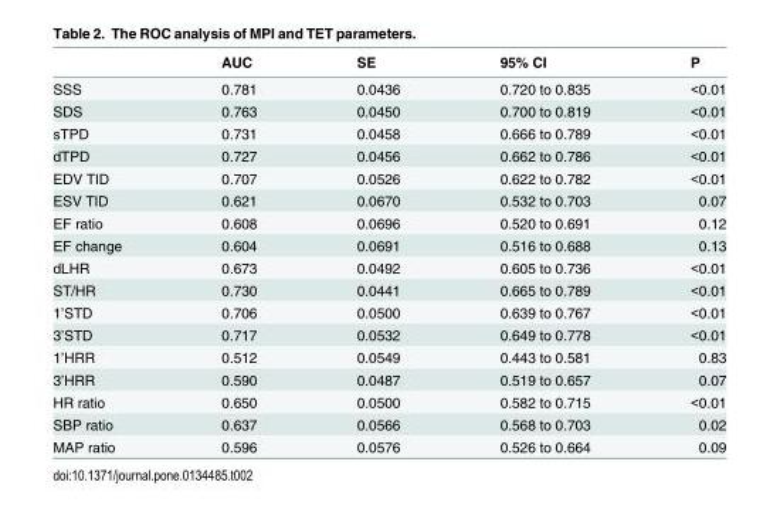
<table><thead><tr><td></td><td>AUC</td><td>SE</td><td>95% CI</td><td>P</td></tr></thead><tbody><tr><td>SSS</td><td>0.781</td><td>0.0436</td><td>0.720 to 0.835</td><td>&lt;0.01</td></tr><tr><td>SDS</td><td>0.763</td><td>0.0450</td><td>0.700 to 0.819</td><td>&lt;0.01</td></tr><tr><td>sTPD</td><td>0.731</td><td>0.0458</td><td>0.666 to 0.789</td><td>&lt;0.01</td></tr><tr><td>dTPD</td><td>0.727</td><td>0.0456</td><td>0.662 to 0.786</td><td>&lt;0.01</td></tr><tr><td>EDV TID</td><td>0.707</td><td>0.0526</td><td>0.622 to 0.782</td><td>&lt;0.01</td></tr><tr><td>ESV TID</td><td>0.621</td><td>0.0670</td><td>0.532 to 0.703</td><td>0.07</td></tr><tr><td>EF ratio</td><td>0.608</td><td>0.0696</td><td>0.520 to 0.691</td><td>0.12</td></tr><tr><td>EF change</td><td>0.604</td><td>0.0691</td><td>0.516 to 0.688</td><td>0.13</td></tr><tr><td>dLHR</td><td>0.673</td><td>0.0492</td><td>0.605 to 0.736</td><td>&lt;0.01</td></tr><tr><td>ST/HR</td><td>0.730</td><td>0.0441</td><td>0.665 to 0.789</td><td>&lt;0.01</td></tr><tr><td>1’STD</td><td>0.706</td><td>0.0500</td><td>0.639 to 0.767</td><td>&lt;0.01</td></tr><tr><td>3’STD</td><td>0.717</td><td>0.0532</td><td>0.649 to 0.778</td><td>&lt;0.01</td></tr><tr><td>1’HRR</td><td>0.512</td><td>0.0549</td><td>0.443 to 0.581</td><td>0.83</td></tr><tr><td>3’HRR</td><td>0.590</td><td>0.0487</td><td>0.519 to 0.657</td><td>0.07</td></tr><tr><td>HR ratio</td><td>0.650</td><td>0.0500</td><td>0.582 to 0.715</td><td>&lt;0.01</td></tr><tr><td>SBP ratio</td><td>0.637</td><td>0.0566</td><td>0.568 to 0.703</td><td>0.02</td></tr><tr><td>MAP ratio</td><td>0.596</td><td>0.0576</td><td>0.526 to 0.664</td><td>0.09</td></tr></tbody></table>